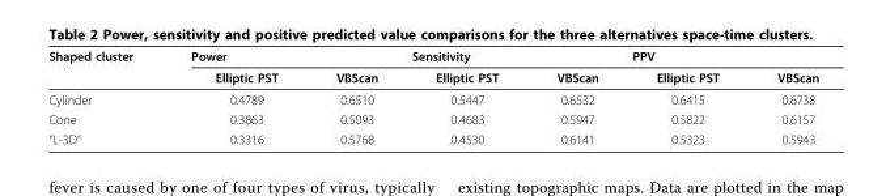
<table><thead><tr><td rowspan="2">Shaped cluster</td><td colspan="2">Power</td><td colspan="2">Sensitivity</td><td colspan="2">PPV</td></tr><tr><td>Elliptic PST</td><td>VBScan</td><td>Elliptic PST</td><td>VBScan</td><td>Elliptic PST</td><td>VBScan</td></tr></thead><tbody><tr><td>Cylinder</td><td>0.4789</td><td>0.6510</td><td>0.5447</td><td>0.6532</td><td>0.6415</td><td>0.6738</td></tr><tr><td>Cone</td><td>0.3863</td><td>0.5093</td><td>0.4683</td><td>0.5947</td><td>0.5822</td><td>0.6157</td></tr><tr><td>“L-3D”</td><td>0.3316</td><td>0.5768</td><td>0.4530</td><td>0.6141</td><td>0.5323</td><td>0.5943</td></tr></tbody></table>